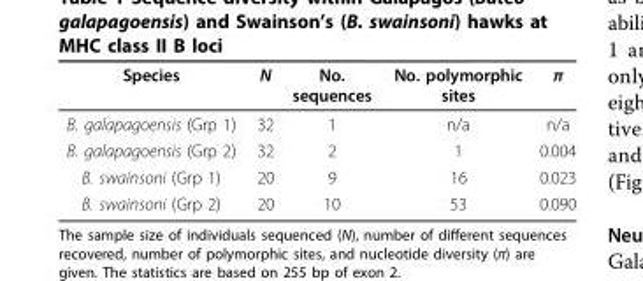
<table><thead><tr><td>Species</td><td>N</td><td>No. sequences</td><td>No. polymorphic sites</td><td>π</td></tr></thead><tbody><tr><td>B. galapagoensis (Grp 1)</td><td>32</td><td>1</td><td>n/a</td><td>n/a</td></tr><tr><td>B. galapagoensis (Grp 2)</td><td>32</td><td>2</td><td>1</td><td>0.004</td></tr><tr><td>B. swainsoni (Grp 1)</td><td>20</td><td>9</td><td>16</td><td>0.023</td></tr><tr><td>B. swainsoni (Grp 2)</td><td>20</td><td>10</td><td>53</td><td>0.090</td></tr></tbody></table>